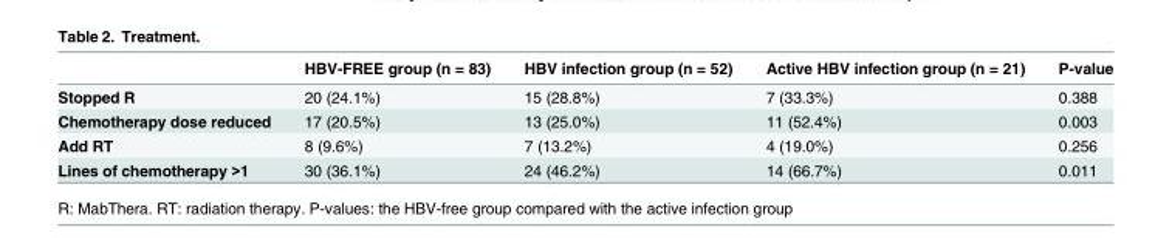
<table><thead><tr><td></td><td>HBV-FREE group (n = 83)</td><td>HBV infection group (n = 52)</td><td>Active HBV infection group (n = 21)</td><td>P-value</td></tr></thead><tbody><tr><td>Stopped R</td><td>20 (24.1%)</td><td>15 (28.8%)</td><td>7 (33.3%)</td><td>0.388</td></tr><tr><td>Chemotherapy dose reduced</td><td>17 (20.5%)</td><td>13 (25.0%)</td><td>11 (52.4%)</td><td>0.003</td></tr><tr><td>Add RT</td><td>8 (9.6%)</td><td>7 (13.2%)</td><td>4 (19.0%)</td><td>0.256</td></tr><tr><td>Lines of chemotherapy &gt;1</td><td>30 (36.1%)</td><td>24 (46.2%)</td><td>14 (66.7%)</td><td>0.011</td></tr></tbody></table>